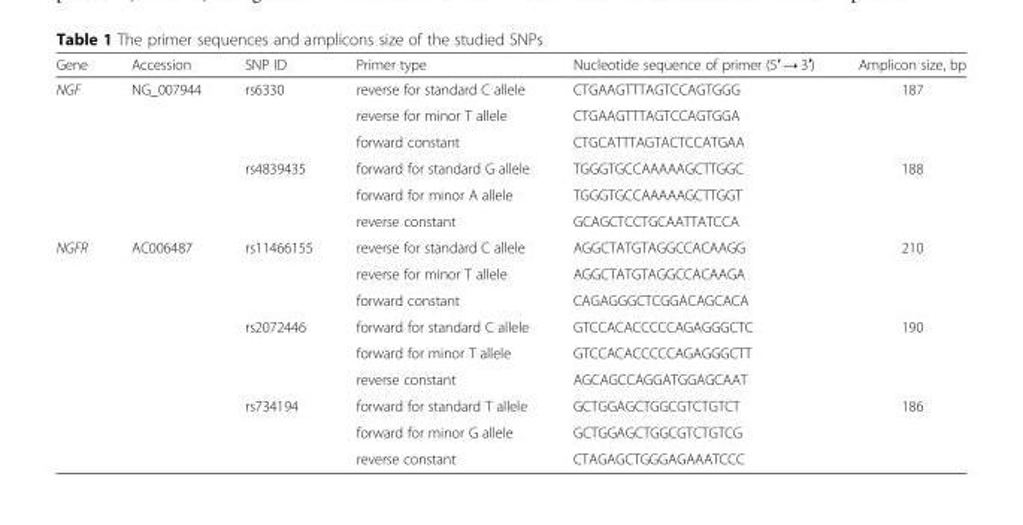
<table><thead><tr><td>Gene</td><td>Accession</td><td>SNP ID</td><td>Primer type</td><td>Nucleotide sequence of primer (5′ → 3′)</td><td>Amplicon size, bp</td></tr></thead><tbody><tr><td rowspan="6">NGF</td><td rowspan="6">NG_007944</td><td rowspan="3">rs6330</td><td>reverse for standard C allele</td><td>CTGAAGTTTAGTCCAGTGGG</td><td rowspan="3">187</td></tr><tr><td>reverse for minor T allele</td><td>CTGAAGTTTAGTCCAGTGGA</td></tr><tr><td>forward constant</td><td>CTGCATTTAGTACTCCATGAA</td></tr><tr><td rowspan="3">rs4839435</td><td>forward for standard G allele</td><td>TGGGTGCCAAAAAGCTTGGC</td><td rowspan="3">188</td></tr><tr><td>forward for minor A allele</td><td>TGGGTGCCAAAAAGCTTGGT</td></tr><tr><td>reverse constant</td><td>GCAGCTCCTGCAATTATCCA</td></tr><tr><td rowspan="9">NGFR</td><td rowspan="9">AC006487</td><td rowspan="3">rs11466155</td><td>reverse for standard C allele</td><td>AGGCTATGTAGGCCACAAGG</td><td rowspan="3">210</td></tr><tr><td>reverse for minor T allele</td><td>AGGCTATGTAGGCCACAAGA</td></tr><tr><td>forward constant</td><td>CAGAGGGCTCGGACAGCACA</td></tr><tr><td rowspan="3">rs2072446</td><td>forward for standard C allele</td><td>GTCCACACCCCCAGAGGGCTC</td><td rowspan="3">190</td></tr><tr><td>forward for minor T allele</td><td>GTCCACACCCCCAGAGGGCTT</td></tr><tr><td>reverse constant</td><td>AGCAGCCAGGATGGAGCAAT</td></tr><tr><td rowspan="3">rs734194</td><td>forward for standard T allele</td><td>GCTGGAGCTGGCGTCTGTCT</td><td rowspan="3">186</td></tr><tr><td>forward for minor G allele</td><td>GCTGGAGCTGGCGTCTGTCG</td></tr><tr><td>reverse constant</td><td>CTAGAGCTGGGAGAAATCCC</td></tr></tbody></table>